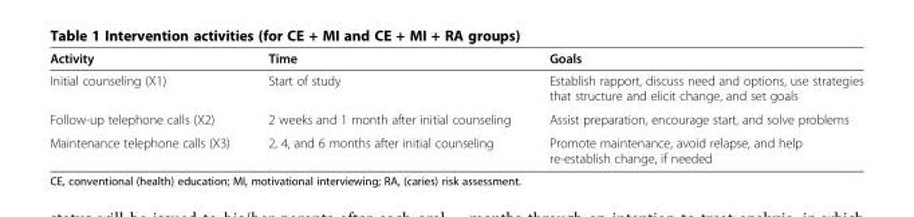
<table><thead><tr><td>Activity</td><td>Time</td><td>Goals</td></tr></thead><tbody><tr><td>Initial counseling (X1)</td><td>Start of study</td><td>Establish rapport, discuss need and options, use strategies that structure and elicit change, and set goals</td></tr><tr><td>Follow-up telephone calls (X2)</td><td>2 weeks and 1 month after initial counseling</td><td>Assist preparation, encourage start, and solve problems</td></tr><tr><td>Maintenance telephone calls (X3)</td><td>2, 4, and 6 months after initial counseling</td><td>Promote maintenance, avoid relapse, and help re-establish change, if needed</td></tr></tbody></table>